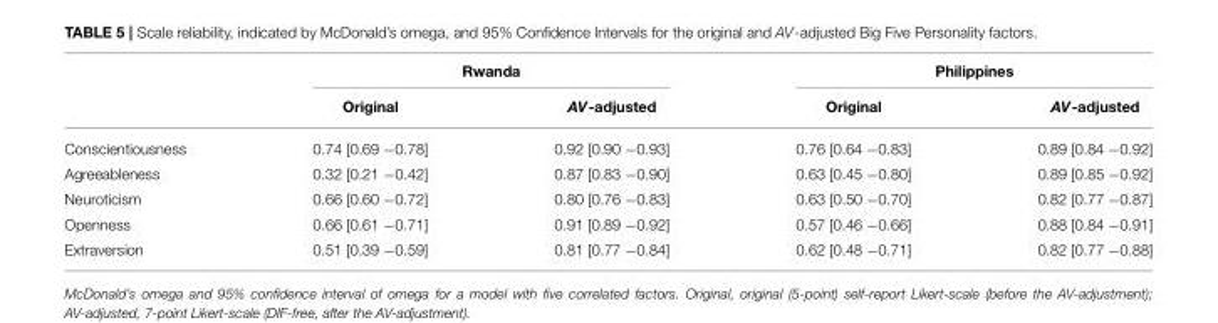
<table><thead><tr><td rowspan="2"></td><td colspan="2">Rwanda</td><td colspan="2">Philippines</td></tr><tr><td>Original</td><td>AV-adjusted</td><td>Original</td><td>AV-adjusted</td></tr></thead><tbody><tr><td>Conscientiousness</td><td>0.74 [0.69 −0.78]</td><td>0.92 [0.90 −0.93]</td><td>0.76 [0.64 −0.83]</td><td>0.89 [0.84 −0.92]</td></tr><tr><td>Agreeableness</td><td>0.32 [0.21 −0.42]</td><td>0.87 [0.83 −0.90]</td><td>0.63 [0.45 −0.80]</td><td>0.89 [0.85 −0.92]</td></tr><tr><td>Neuroticism</td><td>0.66 [0.60 −0.72]</td><td>0.80 [0.76 −0.83]</td><td>0.63 [0.50 −0.70]</td><td>0.82 [0.77 −0.87]</td></tr><tr><td>Openness</td><td>0.66 [0.61 −0.71]</td><td>0.91 [0.89 −0.92]</td><td>0.57 [0.46 −0.66]</td><td>0.88 [0.84 −0.91]</td></tr><tr><td>Extraversion</td><td>0.51 [0.39 −0.59]</td><td>0.81 [0.77 −0.84]</td><td>0.62 [0.48 −0.71]</td><td>0.82 [0.77 −0.88]</td></tr></tbody></table>